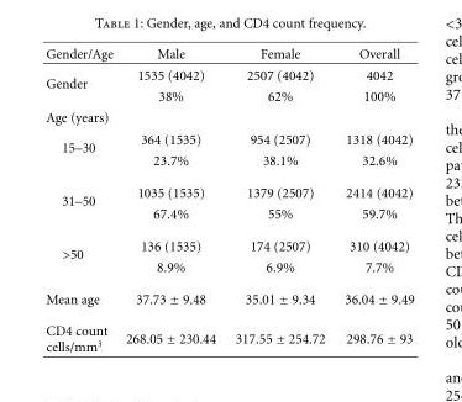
<table><thead><tr><td>Gender/Age</td><td>Male</td><td>Female</td><td>Overall</td></tr></thead><tbody><tr><td rowspan="2">Gender</td><td>1535 (4042)</td><td>2507 (4042)</td><td>4042</td></tr><tr><td>38%</td><td>62%</td><td>100%</td></tr><tr><td colspan="4">Age (years)</td></tr><tr><td rowspan="2">15–30</td><td>364 (1535)</td><td>954 (2507)</td><td>1318 (4042)</td></tr><tr><td>23.7%</td><td>38.1%</td><td>32.6%</td></tr><tr><td rowspan="2">31–50</td><td>1035 (1535)</td><td>1379 (2507)</td><td>2414 (4042)</td></tr><tr><td>67.4%</td><td>55%</td><td>59.7%</td></tr><tr><td rowspan="2">&gt;50</td><td>136 (1535)</td><td>174 (2507)</td><td>310 (4042)</td></tr><tr><td>8.9%</td><td>6.9%</td><td>7.7%</td></tr><tr><td>Mean age</td><td>37.73 ± 9.48</td><td>35.01 ± 9.34</td><td>36.04 ± 9.49</td></tr><tr><td>CD4 count cells/mm<sup>3</sup></td><td>268.05 ± 230.44</td><td>317.55 ± 254.72</td><td>298.76 ± 93</td></tr></tbody></table>